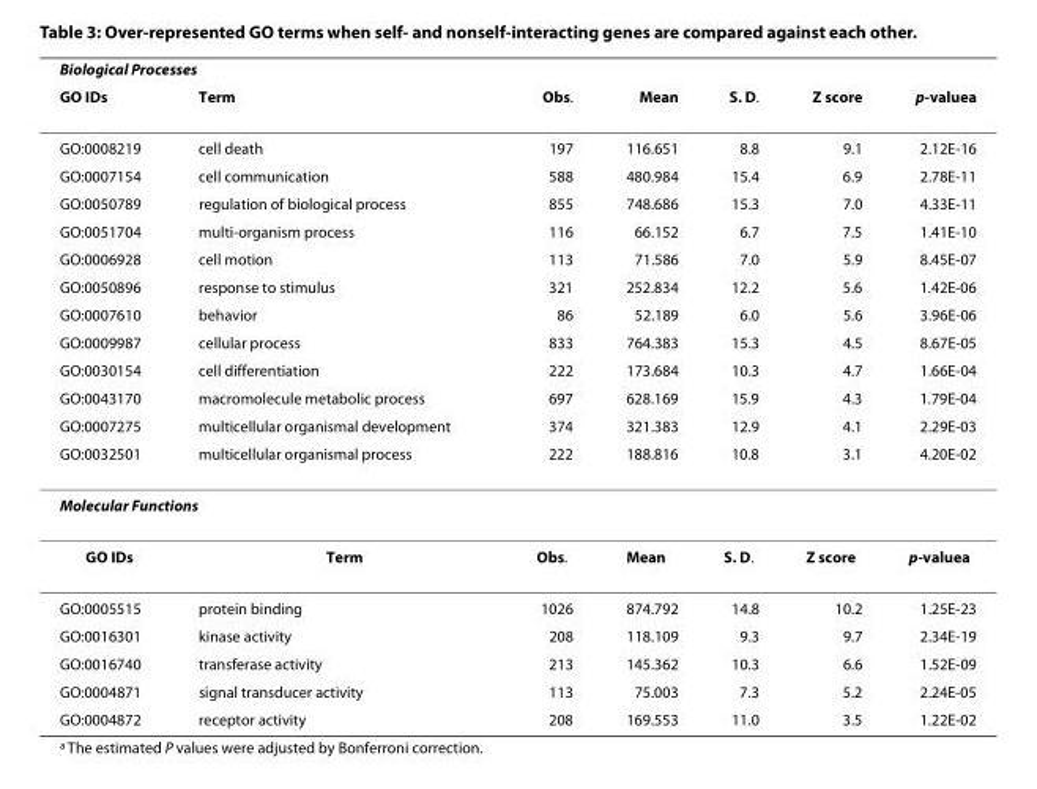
<table><thead><tr><td colspan="7">Biological Processes</td></tr><tr><td>GO IDs</td><td>Term</td><td>Obs.</td><td>Mean</td><td>S. D.</td><td>Z score</td><td>p-value<sup>a</sup></td></tr></thead><tbody><tr><td>GO:0008219</td><td>cell death</td><td>197</td><td>116.651</td><td>8.8</td><td>9.1</td><td>2.12E-16</td></tr><tr><td>GO:0007154</td><td>cell communication</td><td>588</td><td>480.984</td><td>15.4</td><td>6.9</td><td>2.78E-11</td></tr><tr><td>GO:0050789</td><td>regulation of biological process</td><td>855</td><td>748.686</td><td>15.3</td><td>7.0</td><td>4.33E-11</td></tr><tr><td>GO:0051704</td><td>multi-organism process</td><td>116</td><td>66.152</td><td>6.7</td><td>7.5</td><td>1.41E-10</td></tr><tr><td>GO:0006928</td><td>cell motion</td><td>113</td><td>71.586</td><td>7.0</td><td>5.9</td><td>8.45E-07</td></tr><tr><td>GO:0050896</td><td>response to stimulus</td><td>321</td><td>252.834</td><td>12.2</td><td>5.6</td><td>1.42E-06</td></tr><tr><td>GO:0007610</td><td>behavior</td><td>86</td><td>52.189</td><td>6.0</td><td>5.6</td><td>3.96E-06</td></tr><tr><td>GO:0009987</td><td>cellular process</td><td>833</td><td>764.383</td><td>15.3</td><td>4.5</td><td>8.67E-05</td></tr><tr><td>GO:0030154</td><td>cell differentiation</td><td>222</td><td>173.684</td><td>10.3</td><td>4.7</td><td>1.66E-04</td></tr><tr><td>GO:0043170</td><td>macromolecule metabolic process</td><td>697</td><td>628.169</td><td>15.9</td><td>4.3</td><td>1.79E-04</td></tr><tr><td>GO:0007275</td><td>multicellular organismal development</td><td>374</td><td>321.383</td><td>12.9</td><td>4.1</td><td>2.29E-03</td></tr><tr><td>GO:0032501</td><td>multicellular organismal process</td><td>222</td><td>188.816</td><td>10.8</td><td>3.1</td><td>4.20E-02</td></tr><tr><td colspan="7">Molecular Functions</td></tr><tr><td>GO IDs</td><td>Term</td><td>Obs.</td><td>Mean</td><td>S. D.</td><td>Z score</td><td>p-value<sup>a</sup></td></tr><tr><td>GO:0005515</td><td>protein binding</td><td>1026</td><td>874.792</td><td>14.8</td><td>10.2</td><td>1.25E-23</td></tr><tr><td>GO:0016301</td><td>kinase activity</td><td>208</td><td>118.109</td><td>9.3</td><td>9.7</td><td>2.34E-19</td></tr><tr><td>GO:0016740</td><td>transferase activity</td><td>213</td><td>145.362</td><td>10.3</td><td>6.6</td><td>1.52E-09</td></tr><tr><td>GO:0004871</td><td>signal transducer activity</td><td>113</td><td>75.003</td><td>7.3</td><td>5.2</td><td>2.24E-05</td></tr><tr><td>GO:0004872</td><td>receptor activity</td><td>208</td><td>169.553</td><td>11.0</td><td>3.5</td><td>1.22E-02</td></tr></tbody></table>